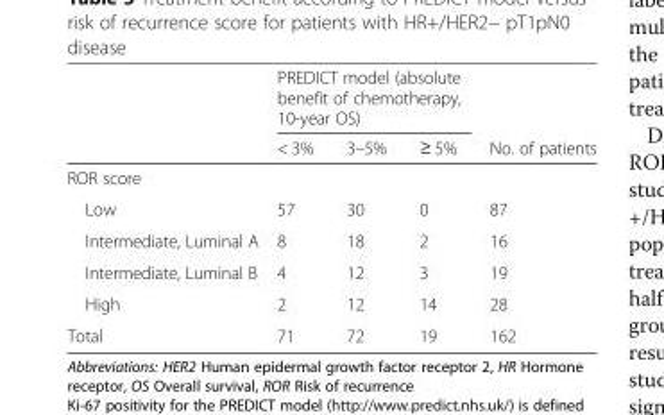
<table><thead><tr><td rowspan="2"></td><td colspan="3">PREDICT model (absolute benefit of chemotherapy, 10-year OS)</td><td rowspan="2">No. of patients</td></tr><tr><td>&lt; 3%</td><td>3–5%</td><td>≥ 5%</td></tr></thead><tbody><tr><td colspan="5">ROR score</td></tr><tr><td>Low</td><td>57</td><td>30</td><td>0</td><td>87</td></tr><tr><td>Intermediate, Luminal A</td><td>8</td><td>18</td><td>2</td><td>16</td></tr><tr><td>Intermediate, Luminal B</td><td>4</td><td>12</td><td>3</td><td>19</td></tr><tr><td>High</td><td>2</td><td>12</td><td>14</td><td>28</td></tr><tr><td>Total</td><td>71</td><td>72</td><td>19</td><td>162</td></tr></tbody></table>